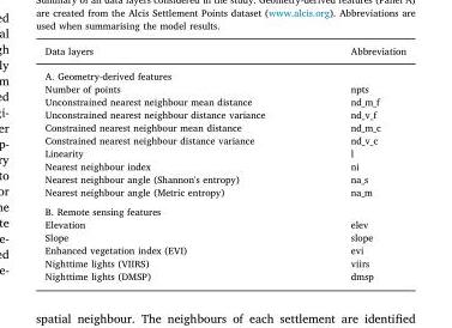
<table><thead><tr><td>Data layers</td><td>Abbreviation</td></tr></thead><tbody><tr><td colspan="2">A. Geometry-derived features</td></tr><tr><td>Number of points</td><td>npts</td></tr><tr><td>Unconstrained nearest neighbour mean distance</td><td>nd_m_f</td></tr><tr><td>Unconstrained nearest neighbour distance variance</td><td>nd_v_f</td></tr><tr><td>Constrained nearest neighbour mean distance</td><td>nd_m_c</td></tr><tr><td>Constrained nearest neighbour distance variance</td><td>nd_v_c</td></tr><tr><td>Linearity</td><td>l</td></tr><tr><td>Nearest neighbour index</td><td>ni</td></tr><tr><td>Nearest neighbour angle (Shannon&#x27;s entropy)</td><td>na_s</td></tr><tr><td>Nearest neighbour angle (Metric entropy)</td><td>na_m</td></tr><tr><td colspan="2">B. Remote sensing features</td></tr><tr><td>Elevation</td><td>elev</td></tr><tr><td>Slope</td><td>slope</td></tr><tr><td>Enhanced vegetation index (EVI)</td><td>evi</td></tr><tr><td>Nighttime lights (VIIRS)</td><td>viirs</td></tr><tr><td>Nighttime lights (DMSP)</td><td>dmsp</td></tr></tbody></table>